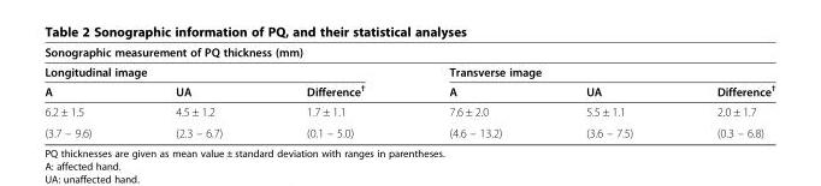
<table><thead><tr><td colspan="6">Sonographic measurement of PQ thickness (mm)</td></tr><tr><td colspan="3">Longitudinal image</td><td colspan="3">Transverse image</td></tr><tr><td>A</td><td>UA</td><td>Difference<sup>†</sup></td><td>A</td><td>UA</td><td>Difference<sup>†</sup></td></tr></thead><tbody><tr><td>6.2 ± 1.5</td><td>4.5 ± 1.2</td><td>1.7 ± 1.1</td><td>7.6 ± 2.0</td><td>5.5 ± 1.1</td><td>2.0 ± 1.7</td></tr><tr><td>(3.7 – 9.6)</td><td>(2.3 – 6.7)</td><td>(0.1 – 5.0)</td><td>(4.6 – 13.2)</td><td>(3.6 – 7.5)</td><td>(0.3 – 6.8)</td></tr></tbody></table>